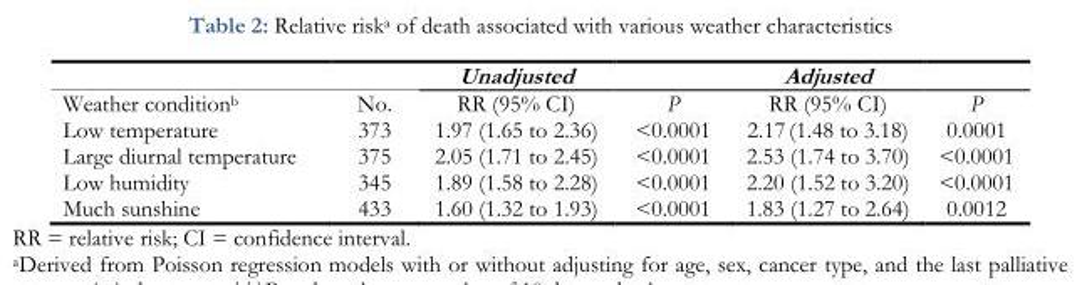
<table><thead><tr><td></td><td></td><td>Unadjusted</td><td></td><td>Adjusted</td><td></td></tr></thead><tbody><tr><td>Weather condition<sup>b</sup></td><td>No.</td><td>RR (95% CI)</td><td>P</td><td>RR (95% CI)</td><td>P</td></tr><tr><td>Low temperature</td><td>373</td><td>1.97 (1.65 to 2.36)</td><td>&lt;0.0001</td><td>2.17 (1.48 to 3.18)</td><td>0.0001</td></tr><tr><td>Large diurnal temperature</td><td>375</td><td>2.05 (1.71 to 2.45)</td><td>&lt;0.0001</td><td>2.53 (1.74 to 3.70)</td><td>&lt;0.0001</td></tr><tr><td>Low humidity</td><td>345</td><td>1.89 (1.58 to 2.28)</td><td>&lt;0.0001</td><td>2.20 (1.52 to 3.20)</td><td>&lt;0.0001</td></tr><tr><td>Much sunshine</td><td>433</td><td>1.60 (1.32 to 1.93)</td><td>&lt;0.0001</td><td>1.83 (1.27 to 2.64)</td><td>0.0012</td></tr></tbody></table>